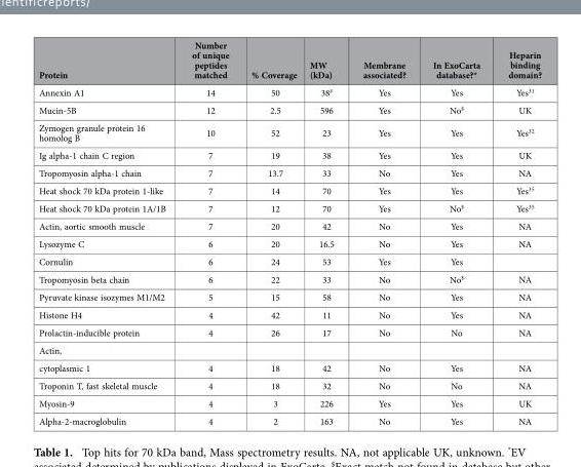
<table><thead><tr><td>Protein</td><td>Number of unique peptides matched</td><td>% Coverage</td><td>MW (kDa)</td><td>Membrane associated?</td><td>In ExoCarta database?*</td><td>Heparin binding domain?</td></tr></thead><tbody><tr><td>Annexin A1</td><td>14</td><td>50</td><td>38#</td><td>Yes</td><td>Yes</td><td>Yes<sup>31</sup></td></tr><tr><td>Mucin-5B</td><td>12</td><td>2.5</td><td>596</td><td>Yes</td><td>No$</td><td>UK</td></tr><tr><td>Zymogen granule protein 16 homolog B</td><td>10</td><td>52</td><td>23</td><td>Yes</td><td>Yes</td><td>Yes<sup>32</sup></td></tr><tr><td>Ig alpha-1 chain C region</td><td>7</td><td>19</td><td>38</td><td>Yes</td><td>Yes</td><td>UK</td></tr><tr><td>Tropomyosin alpha-1 chain</td><td>7</td><td>13.7</td><td>33</td><td>No</td><td>Yes</td><td>NA</td></tr><tr><td>Heat shock 70 kDa protein 1-like</td><td>7</td><td>14</td><td>70</td><td>Yes</td><td>Yes</td><td>Yes<sup>35</sup></td></tr><tr><td>Heat shock 70 kDa protein 1A/1B</td><td>7</td><td>12</td><td>70</td><td>Yes</td><td>No$</td><td>Yes<sup>35</sup></td></tr><tr><td>Actin, aortic smooth muscle</td><td>7</td><td>20</td><td>42</td><td>No</td><td>Yes</td><td>NA</td></tr><tr><td>Lysozyme C</td><td>6</td><td>20</td><td>16.5</td><td>No</td><td>Yes</td><td>NA</td></tr><tr><td>Cornulin</td><td>6</td><td>24</td><td>53</td><td>Yes</td><td>Yes</td><td></td></tr><tr><td>Tropomyosin beta chain</td><td>6</td><td>22</td><td>33</td><td>No</td><td>No$</td><td>NA</td></tr><tr><td>Pyruvate kinase isozymes M1/M2</td><td>5</td><td>15</td><td>58</td><td>No</td><td>Yes</td><td>NA</td></tr><tr><td>Histone H4</td><td>4</td><td>42</td><td>11</td><td>No</td><td>Yes</td><td>NA</td></tr><tr><td>Prolactin-inducible protein</td><td>4</td><td>26</td><td>17</td><td>No</td><td>No</td><td>NA</td></tr><tr><td colspan="7">Actin,</td></tr><tr><td>cytoplasmic 1</td><td>4</td><td>18</td><td>42</td><td>No</td><td>Yes</td><td>NA</td></tr><tr><td>Troponin T, fast skeletal muscle</td><td>4</td><td>18</td><td>32</td><td>No</td><td>No</td><td>NA</td></tr><tr><td>Myosin-9</td><td>4</td><td>3</td><td>226</td><td>Yes</td><td>Yes</td><td>UK</td></tr><tr><td>Alpha-2-macroglobulin</td><td>4</td><td>2</td><td>163</td><td>No</td><td>Yes</td><td>NA</td></tr></tbody></table>